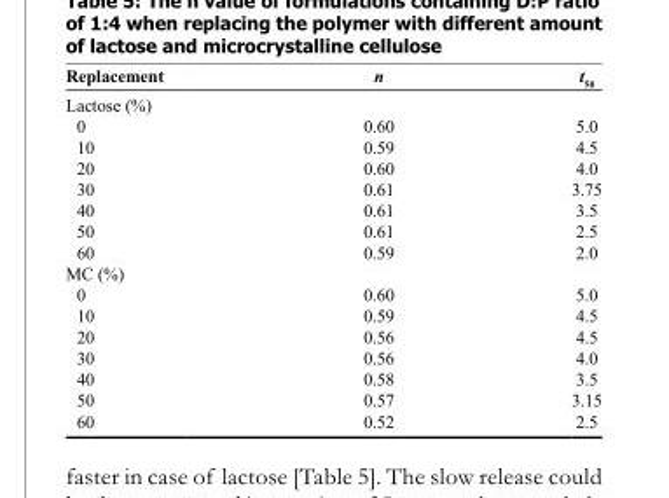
<table><thead><tr><td>Replacement</td><td>n</td><td>t<sub>50</sub></td></tr></thead><tbody><tr><td colspan="3">Lactose (%)</td></tr><tr><td>0</td><td>0.60</td><td>5.0</td></tr><tr><td>10</td><td>0.59</td><td>4.5</td></tr><tr><td>20</td><td>0.60</td><td>4.0</td></tr><tr><td>30</td><td>0.61</td><td>3.75</td></tr><tr><td>40</td><td>0.61</td><td>3.5</td></tr><tr><td>50</td><td>0.61</td><td>2.5</td></tr><tr><td>60</td><td>0.59</td><td>2.0</td></tr><tr><td colspan="3">MC (%)</td></tr><tr><td>0</td><td>0.60</td><td>5.0</td></tr><tr><td>10</td><td>0.59</td><td>4.5</td></tr><tr><td>20</td><td>0.56</td><td>4.5</td></tr><tr><td>30</td><td>0.56</td><td>4.0</td></tr><tr><td>40</td><td>0.58</td><td>3.5</td></tr><tr><td>50</td><td>0.57</td><td>3.15</td></tr><tr><td>60</td><td>0.52</td><td>2.5</td></tr></tbody></table>